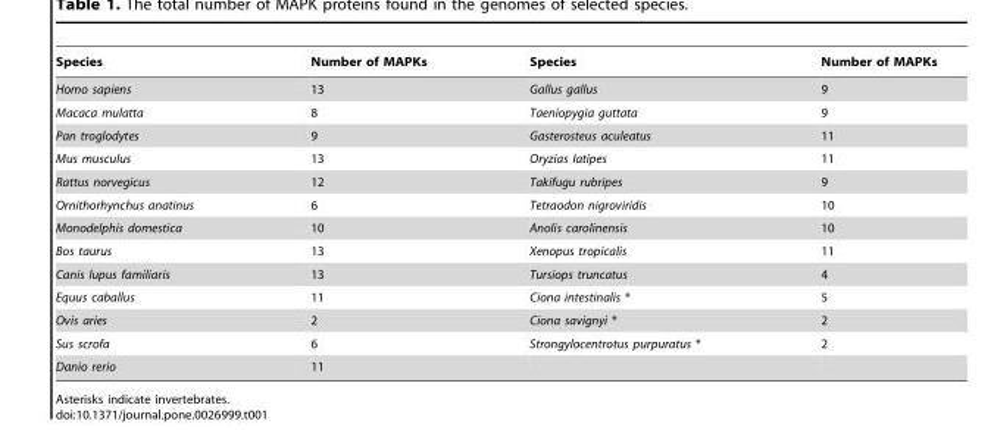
<table><thead><tr><td>Species</td><td>Number of MAPKs</td><td>Species</td><td>Number of MAPKs</td></tr></thead><tbody><tr><td>Homo sapiens</td><td>13</td><td>Gallus gallus</td><td>9</td></tr><tr><td>Macaca mulatta</td><td>8</td><td>Taeniopygia guttata</td><td>9</td></tr><tr><td>Pan troglodytes</td><td>9</td><td>Gasterosteus aculeatus</td><td>11</td></tr><tr><td>Mus musculus</td><td>13</td><td>Oryzias latipes</td><td>11</td></tr><tr><td>Rattus norvegicus</td><td>12</td><td>Takifugu rubripes</td><td>9</td></tr><tr><td>Ornithorhynchus anatinus</td><td>6</td><td>Tetraodon nigroviridis</td><td>10</td></tr><tr><td>Monodelphis domestica</td><td>10</td><td>Anolis carolinensis</td><td>10</td></tr><tr><td>Bos taurus</td><td>13</td><td>Xenopus tropicalis</td><td>11</td></tr><tr><td>Canis lupus familiaris</td><td>13</td><td>Tursiops truncatus</td><td>4</td></tr><tr><td>Equus caballus</td><td>11</td><td>Ciona intestinalis *</td><td>5</td></tr><tr><td>Ovis aries</td><td>2</td><td>Ciona savignyi *</td><td>2</td></tr><tr><td>Sus scrofa</td><td>6</td><td>Strongylocentrotus purpuratus *</td><td>2</td></tr><tr><td>Danio rerio</td><td>11</td><td></td><td></td></tr></tbody></table>